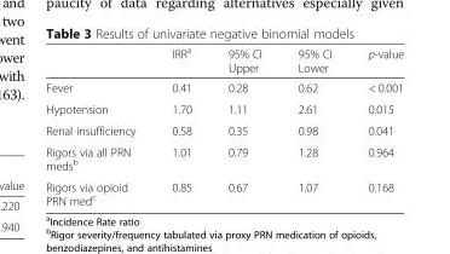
<table><thead><tr><td></td><td>IRR<sup>a</sup></td><td>95% CI Upper</td><td>95% CI Lower</td><td>p-value</td></tr></thead><tbody><tr><td>Fever</td><td>0.41</td><td>0.28</td><td>0.62</td><td>&lt; 0.001</td></tr><tr><td>Hypotension</td><td>1.70</td><td>1.11</td><td>2.61</td><td>0.015</td></tr><tr><td>Renal insufficiency</td><td>0.58</td><td>0.35</td><td>0.98</td><td>0.041</td></tr><tr><td>Rigors via all PRN meds<sup>b</sup></td><td>1.01</td><td>0.79</td><td>1.28</td><td>0.964</td></tr><tr><td>Rigors via opioid PRN med<sup>c</sup></td><td>0.85</td><td>0.67</td><td>1.07</td><td>0.168</td></tr></tbody></table>